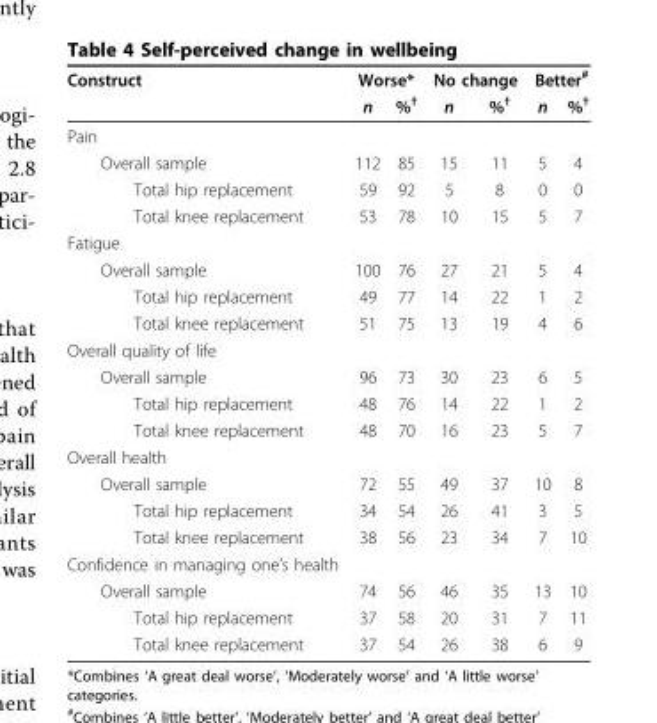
<table><thead><tr><td rowspan="2">Construct</td><td colspan="2">Worse*</td><td colspan="2">No change</td><td colspan="2">Better<sup>#</sup></td></tr><tr><td>n</td><td>%<sup>†</sup></td><td>n</td><td>%<sup>†</sup></td><td>n</td><td>%<sup>†</sup></td></tr></thead><tbody><tr><td colspan="7">Pain</td></tr><tr><td>Overall sample</td><td>112</td><td>85</td><td>15</td><td>11</td><td>5</td><td>4</td></tr><tr><td>Total hip replacement</td><td>59</td><td>92</td><td>5</td><td>8</td><td>0</td><td>0</td></tr><tr><td>Total knee replacement</td><td>53</td><td>78</td><td>10</td><td>15</td><td>5</td><td>7</td></tr><tr><td colspan="7">Fatigue</td></tr><tr><td>Overall sample</td><td>100</td><td>76</td><td>27</td><td>21</td><td>5</td><td>4</td></tr><tr><td>Total hip replacement</td><td>49</td><td>77</td><td>14</td><td>22</td><td>1</td><td>2</td></tr><tr><td>Total knee replacement</td><td>51</td><td>75</td><td>13</td><td>19</td><td>4</td><td>6</td></tr><tr><td colspan="7">Overall quality of life</td></tr><tr><td>Overall sample</td><td>96</td><td>73</td><td>30</td><td>23</td><td>6</td><td>5</td></tr><tr><td>Total hip replacement</td><td>48</td><td>76</td><td>14</td><td>22</td><td>1</td><td>2</td></tr><tr><td>Total knee replacement</td><td>48</td><td>70</td><td>16</td><td>23</td><td>5</td><td>7</td></tr><tr><td colspan="7">Overall health</td></tr><tr><td>Overall sample</td><td>72</td><td>55</td><td>49</td><td>37</td><td>10</td><td>8</td></tr><tr><td>Total hip replacement</td><td>34</td><td>54</td><td>26</td><td>41</td><td>3</td><td>5</td></tr><tr><td>Total knee replacement</td><td>38</td><td>56</td><td>23</td><td>34</td><td>7</td><td>10</td></tr><tr><td colspan="7">Confidence in managing one’s health</td></tr><tr><td>Overall sample</td><td>74</td><td>56</td><td>46</td><td>35</td><td>13</td><td>10</td></tr><tr><td>Total hip replacement</td><td>37</td><td>58</td><td>20</td><td>31</td><td>7</td><td>11</td></tr><tr><td>Total knee replacement</td><td>37</td><td>54</td><td>26</td><td>38</td><td>6</td><td>9</td></tr></tbody></table>